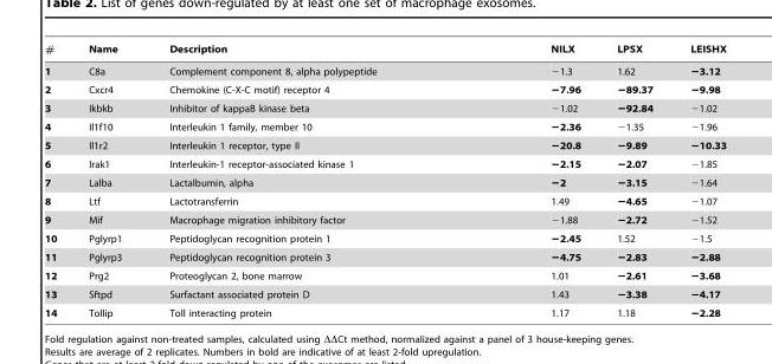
<table><thead><tr><td>#</td><td>Name</td><td>Description</td><td>NILX</td><td>LPSX</td><td>LEISHX</td></tr></thead><tbody><tr><td>1</td><td>C8a</td><td>Complement component 8, alpha polypeptide</td><td>−1.3</td><td>1.62</td><td>−3.12</td></tr><tr><td>2</td><td>Cxcr4</td><td>Chemokine (C-X-C motif) receptor 4</td><td>−7.96</td><td>−89.37</td><td>−9.98</td></tr><tr><td>3</td><td>Ikbkb</td><td>Inhibitor of kappaB kinase beta</td><td>−1.02</td><td>−92.84</td><td>−1.02</td></tr><tr><td>4</td><td>Il1f10</td><td>Interleukin 1 family, member 10</td><td>−2.36</td><td>−1.35</td><td>−1.96</td></tr><tr><td>5</td><td>Il1r2</td><td>Interleukin 1 receptor, type II</td><td>−20.8</td><td>−9.89</td><td>−10.33</td></tr><tr><td>6</td><td>Irak1</td><td>Interleukin-1 receptor-associated kinase 1</td><td>−2.15</td><td>−2.07</td><td>−1.85</td></tr><tr><td>7</td><td>Lalba</td><td>Lactalbumin, alpha</td><td>−2</td><td>−3.15</td><td>−1.64</td></tr><tr><td>8</td><td>Ltf</td><td>Lactotransferrin</td><td>1.49</td><td>−4.65</td><td>−1.07</td></tr><tr><td>9</td><td>Mif</td><td>Macrophage migration inhibitory factor</td><td>−1.88</td><td>−2.72</td><td>−1.52</td></tr><tr><td>10</td><td>Pglyrp1</td><td>Peptidoglycan recognition protein 1</td><td>−2.45</td><td>1.52</td><td>−1.5</td></tr><tr><td>11</td><td>Pglyrp3</td><td>Peptidoglycan recognition protein 3</td><td>−4.75</td><td>−2.83</td><td>−2.88</td></tr><tr><td>12</td><td>Prg2</td><td>Proteoglycan 2, bone marrow</td><td>1.01</td><td>−2.61</td><td>−3.68</td></tr><tr><td>13</td><td>Sftpd</td><td>Surfactant associated protein D</td><td>1.43</td><td>−3.38</td><td>−4.17</td></tr><tr><td>14</td><td>Tollip</td><td>Toll interacting protein</td><td>1.17</td><td>1.18</td><td>−2.28</td></tr></tbody></table>